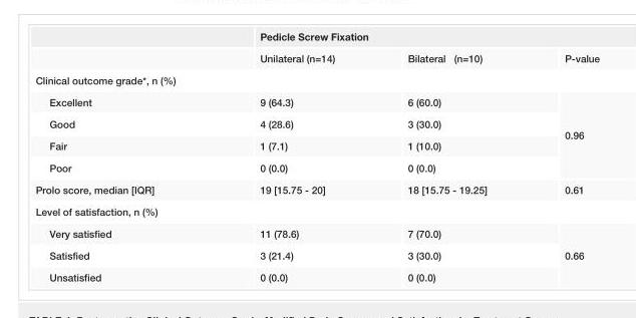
<table><thead><tr><td rowspan="2"></td><td colspan="3">Pedicle Screw Fixation</td></tr><tr><td>Unilateral (n=14)</td><td>Bilateral (n=10)</td><td>P-value</td></tr></thead><tbody><tr><td colspan="4">Clinical outcome grade*, n (%)</td></tr><tr><td>Excellent</td><td>9 (64.3)</td><td>6 (60.0)</td><td rowspan="4">0.96</td></tr><tr><td>Good</td><td>4 (28.6)</td><td>3 (30.0)</td></tr><tr><td>Fair</td><td>1 (7.1)</td><td>1 (10.0)</td></tr><tr><td>Poor</td><td>0 (0.0)</td><td>0 (0.0)</td></tr><tr><td>Prolo score, median [IQR]</td><td>19 [15.75 - 20]</td><td>18 [15.75 - 19.25]</td><td>0.61</td></tr><tr><td colspan="4">Level of satisfaction, n (%)</td></tr><tr><td>Very satisfied</td><td>11 (78.6)</td><td>7 (70.0)</td><td rowspan="3">0.66</td></tr><tr><td>Satisfied</td><td>3 (21.4)</td><td>3 (30.0)</td></tr><tr><td>Unsatisfied</td><td>0 (0.0)</td><td>0 (0.0)</td></tr></tbody></table>